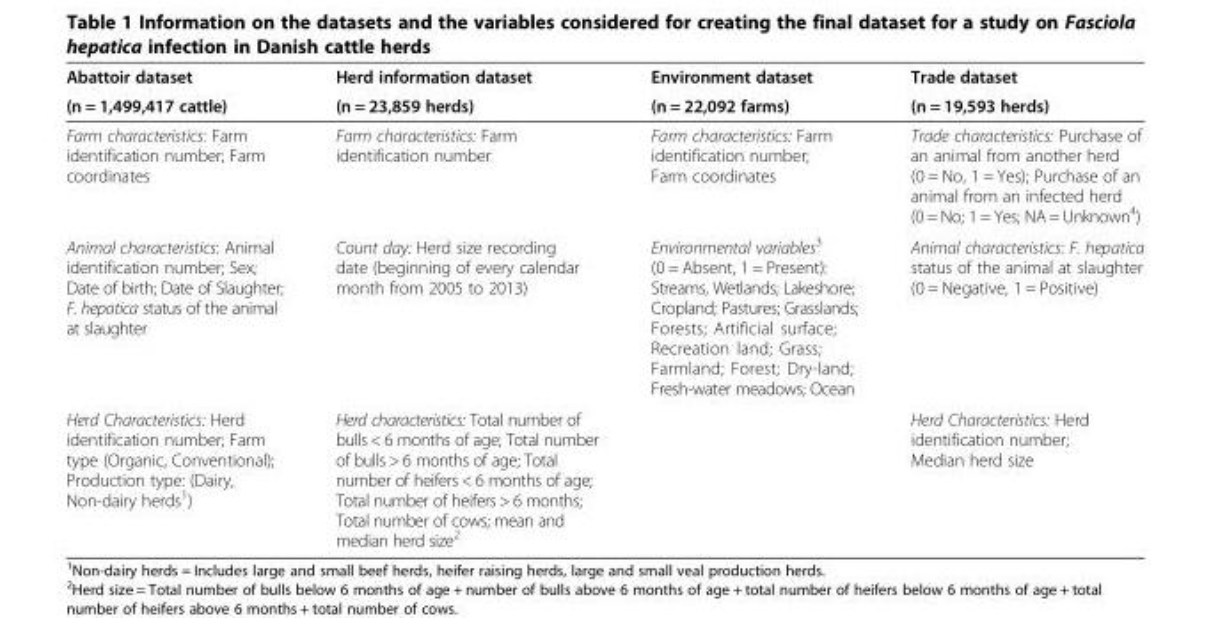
<table><thead><tr><td rowspan="2">Abattoir dataset (n = 1,499,417 cattle)</td><td rowspan="2">Herd information dataset (n = 23,859 herds)</td><td rowspan="2">Environment dataset (n = 22,092 farms)</td><td rowspan="2">Trade dataset (n = 19,593 herds)</td></tr><tr></tr></thead><tbody><tr><td>Farm characteristics: Farm identification number; Farm coordinates</td><td>Farm characteristics: Farm identification number</td><td>Farm characteristics: Farm identification number; Farm coordinates</td><td>Trade characteristics: Purchase of an animal from another herd (0 = No, 1 = Yes); Purchase of an animal from an infected herd (0 = No; 1 = Yes; NA = Unknown<sup>4</sup>)</td></tr><tr><td>Animal characteristics: Animal identification number; Sex; Date of birth; Date of Slaughter; F. hepatica status of the animal at slaughter</td><td>Count day: Herd size recording date (beginning of every calendar month from 2005 to 2013)</td><td>Environmental variables<sup>3</sup> (0 = Absent, 1 = Present): Streams, Wetlands; Lakeshore; Cropland; Pastures; Grasslands; Forests; Artificial surface; Recreation land; Grass; Farmland; Forest; Dry-land; Fresh-water meadows; Ocean</td><td>Animal characteristics: F. hepatica status of the animal at slaughter (0 = Negative, 1 = Positive)</td></tr><tr><td>Herd Characteristics: Herd identification number; Farm type (Organic, Conventional); Production type: (Dairy, Non-dairy herds<sup>1</sup>)</td><td>Herd characteristics: Total number of bulls &lt; 6 months of age; Total number of bulls &gt; 6 months of age; Total number of heifers &lt; 6 months of age; Total number of heifers &gt; 6 months; Total number of cows; mean and median herd size<sup>2</sup></td><td></td><td>Herd Characteristics: Herd identification number; Median herd size</td></tr></tbody></table>